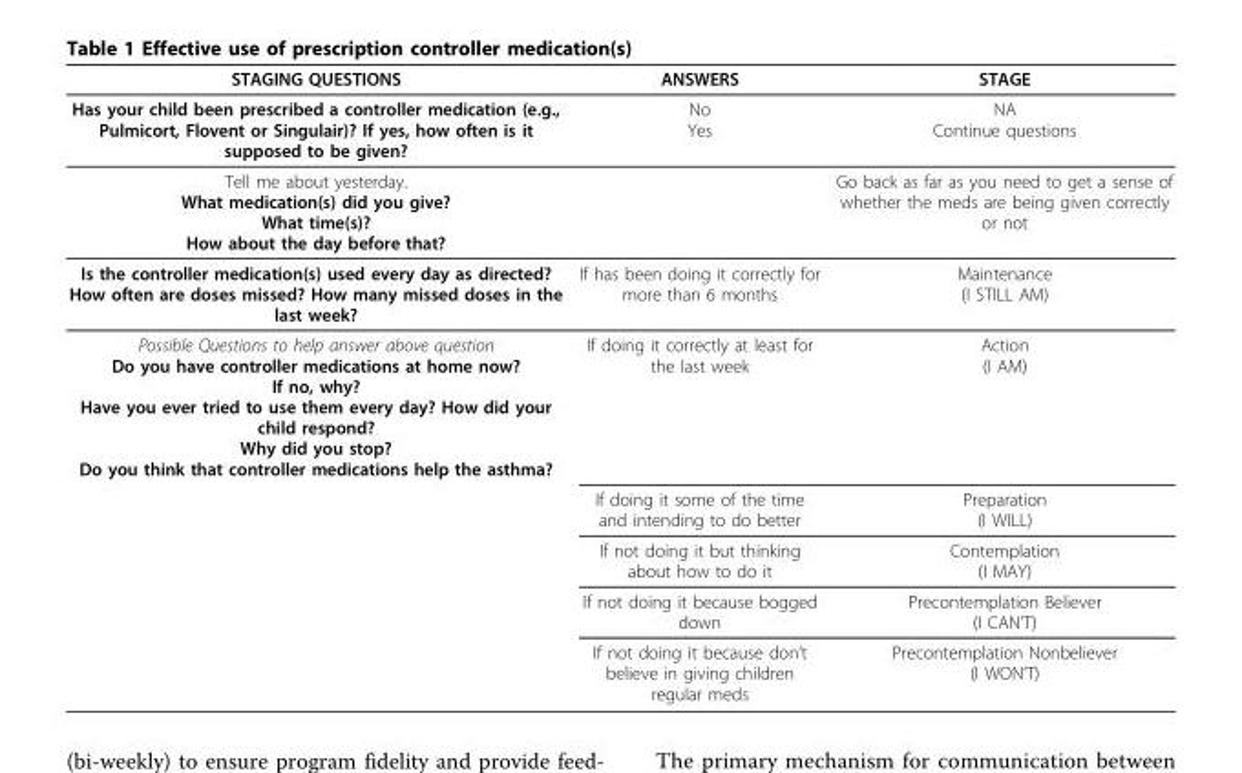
<table><thead><tr><td>STAGING QUESTIONS</td><td>ANSWERS</td><td>STAGE</td></tr></thead><tbody><tr><td>Has your child been prescribed a controller medication (e.g., Pulmicort, Flovent or Singulair)? If yes, how often is it supposed to be given?</td><td>No Yes</td><td>NA Continue questions</td></tr><tr><td>Tell me about yesterday. What medication(s) did you give? What time(s)? How about the day before that?</td><td></td><td>Go back as far as you need to get a sense of whether the meds are being given correctly or not</td></tr><tr><td>Is the controller medication(s) used every day as directed? How often are doses missed? How many missed doses in the last week?</td><td>If has been doing it correctly for more than 6 months</td><td>Maintenance (I STILL AM)</td></tr><tr><td rowspan="5">Possible Questions to help answer above question Do you have controller medications at home now? If no, why? Have you ever tried to use them every day? How did your child respond? Why did you stop? Do you think that controller medications help the asthma?</td><td>If doing it correctly at least for the last week</td><td>Action (I AM)</td></tr><tr><td>If doing it some of the time and intending to do better</td><td>Preparation (I WILL)</td></tr><tr><td>If not doing it but thinking about how to do it</td><td>Contemplation (I MAY)</td></tr><tr><td>If not doing it because bogged down</td><td>Precontemplation Believer (I CAN’T)</td></tr><tr><td>If not doing it because don’t believe in giving children regular meds</td><td>Precontemplation Nonbeliever (I WON’T)</td></tr></tbody></table>